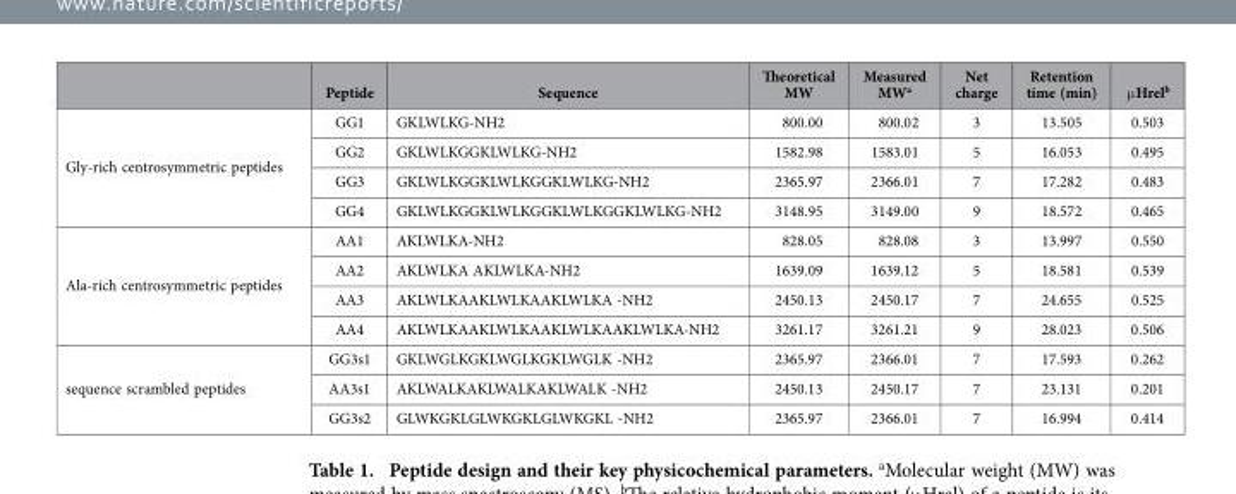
<table><thead><tr><td></td><td>Peptide</td><td>Sequence</td><td>Theoretical MW</td><td>Measured MW<sup>a</sup></td><td>Net charge</td><td>Retention time (min)</td><td>μ Hrel<sup>b</sup></td></tr></thead><tbody><tr><td rowspan="4">Gly-rich centrosymmetric peptides</td><td>GG1</td><td>GKLWLKG-NH2</td><td>800.00</td><td>800.02</td><td>3</td><td>13.505</td><td>0.503</td></tr><tr><td>GG2</td><td>GKLWLKGGKLWLKG-NH2</td><td>1582.98</td><td>1583.01</td><td>5</td><td>16.053</td><td>0.495</td></tr><tr><td>GG3</td><td>GKLWLKGGKLWLKGGKLWLKG-NH2</td><td>2365.97</td><td>2366.01</td><td>7</td><td>17.282</td><td>0.483</td></tr><tr><td>GG4</td><td>GKLWLKGGKLWLKGGKLWLKGGKLWLKG-NH2</td><td>3148.95</td><td>3149.00</td><td>9</td><td>18.572</td><td>0.465</td></tr><tr><td rowspan="4">Ala-rich centrosymmetric peptides</td><td>AA1</td><td>AKLWLKA-NH2</td><td>828.05</td><td>828.08</td><td>3</td><td>13.997</td><td>0.550</td></tr><tr><td>AA2</td><td>AKLWLKA AKLWLKA-NH2</td><td>1639.09</td><td>1639.12</td><td>5</td><td>18.581</td><td>0.539</td></tr><tr><td>AA3</td><td>AKLWLKAAKLWLKAAKLWLKA -NH2</td><td>2450.13</td><td>2450.17</td><td>7</td><td>24.655</td><td>0.525</td></tr><tr><td>AA4</td><td>AKLWLKAAKLWLKAAKLWLKAAKLWLKA-NH2</td><td>3261.17</td><td>3261.21</td><td>9</td><td>28.023</td><td>0.506</td></tr><tr><td rowspan="3">sequence scrambled peptides</td><td>GG3s1</td><td>GKLWGLKGKLWGLKGKLWGLK -NH2</td><td>2365.97</td><td>2366.01</td><td>7</td><td>17.593</td><td>0.262</td></tr><tr><td>AA3s1</td><td>AKLWALKAKLWALKAKLWALK -NH2</td><td>2450.13</td><td>2450.17</td><td>7</td><td>23.131</td><td>0.201</td></tr><tr><td>GG3s2</td><td>GLWKGKLGLWKGKLGLWKGKL -NH2</td><td>2365.97</td><td>2366.01</td><td>7</td><td>16.994</td><td>0.414</td></tr></tbody></table>